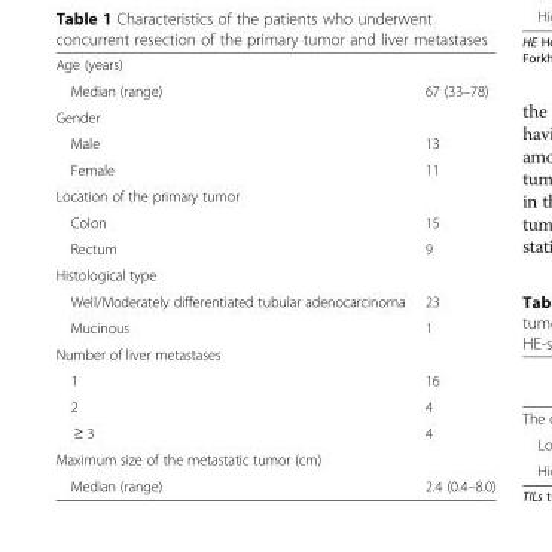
<table><tbody><tr><td colspan="2">Age (years)</td></tr><tr><td>Median (range)</td><td>67 (33–78)</td></tr><tr><td colspan="2">Gender</td></tr><tr><td>Male</td><td>13</td></tr><tr><td>Female</td><td>11</td></tr><tr><td colspan="2">Location of the primary tumor</td></tr><tr><td>Colon</td><td>15</td></tr><tr><td>Rectum</td><td>9</td></tr><tr><td colspan="2">Histological type</td></tr><tr><td>Well/Moderately differentiated tubular adenocarcinoma</td><td>23</td></tr><tr><td>Mucinous</td><td>1</td></tr><tr><td colspan="2">Number of liver metastases</td></tr><tr><td>1</td><td>16</td></tr><tr><td>2</td><td>4</td></tr><tr><td>≥ 3</td><td>4</td></tr><tr><td colspan="2">Maximum size of the metastatic tumor (cm)</td></tr><tr><td>Median (range)</td><td>2.4 (0.4–8.0)</td></tr></tbody></table>